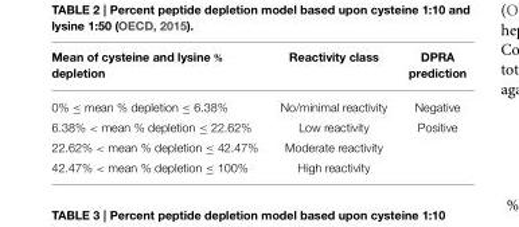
<table><thead><tr><td>Mean of cysteine and lysine % depletion</td><td>Reactivity class</td><td>DPRA prediction</td></tr></thead><tbody><tr><td>0% ≤ mean % depletion ≤ 6.38%</td><td>No/minimal reactivity</td><td>Negative</td></tr><tr><td>6.38% &lt; mean % depletion ≤ 22.62%</td><td>Low reactivity</td><td>Positive</td></tr><tr><td>22.62% &lt; mean % depletion ≤ 42.47%</td><td>Moderate reactivity</td><td></td></tr><tr><td>42.47% &lt; mean % depletion ≤ 100%</td><td>High reactivity</td><td></td></tr></tbody></table>